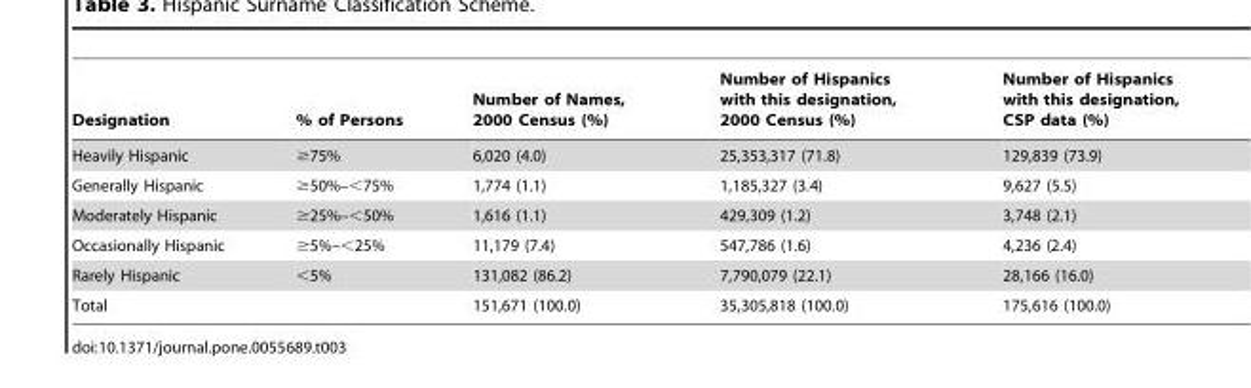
<table><thead><tr><td>Designation</td><td>% of Persons</td><td>Number of Names, 2000 Census (%)</td><td>Number of Hispanics with this designation, 2000 Census (%)</td><td>Number of Hispanics with this designation, CSP data (%)</td></tr></thead><tbody><tr><td>Heavily Hispanic</td><td>≥75%</td><td>6,020 (4.0)</td><td>25,353,317 (71.8)</td><td>129,839 (73.9)</td></tr><tr><td>Generally Hispanic</td><td>≥50%–&lt;75%</td><td>1,774 (1.1)</td><td>1,185,327 (3.4)</td><td>9,627 (5.5)</td></tr><tr><td>Moderately Hispanic</td><td>≥25%–&lt;50%</td><td>1,616 (1.1)</td><td>429,309 (1.2)</td><td>3,748 (2.1)</td></tr><tr><td>Occasionally Hispanic</td><td>≥5%–&lt;25%</td><td>11,179 (7.4)</td><td>547,786 (1.6)</td><td>4,236 (2.4)</td></tr><tr><td>Rarely Hispanic</td><td>&lt;5%</td><td>131,082 (86.2)</td><td>7,790,079 (22.1)</td><td>28,166 (16.0)</td></tr><tr><td>Total</td><td></td><td>151,671 (100.0)</td><td>35,305,818 (100.0)</td><td>175,616 (100.0)</td></tr></tbody></table>